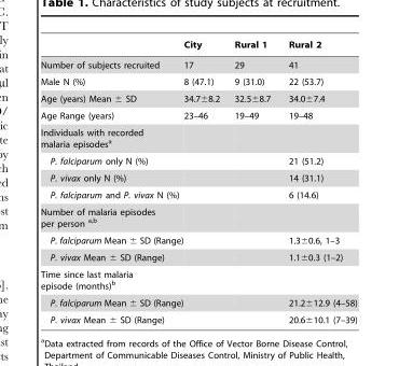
<table><thead><tr><td></td><td>City</td><td>Rural 1</td><td>Rural 2</td></tr></thead><tbody><tr><td>Number of subjects recruited</td><td>17</td><td>29</td><td>41</td></tr><tr><td>Male N (%)</td><td>8 (47.1)</td><td>9 (31.0)</td><td>22 (53.7)</td></tr><tr><td>Age (years) Mean ± SD</td><td>34.7±8.2</td><td>32.5±8.7</td><td>34.0±7.4</td></tr><tr><td>Age Range (years)</td><td>23–46</td><td>19–49</td><td>19–48</td></tr><tr><td colspan="4">Individuals with recorded malaria episodes<sup>a</sup></td></tr><tr><td>P. falciparum only N (%)</td><td></td><td></td><td>21 (51.2)</td></tr><tr><td>P. vivax only N (%)</td><td></td><td></td><td>14 (31.1)</td></tr><tr><td>P. falciparum and P. vivax N (%)</td><td></td><td></td><td>6 (14.6)</td></tr><tr><td colspan="4">Number of malaria episodes per person a,b</td></tr><tr><td>P. falciparum Mean ± SD (Range)</td><td></td><td></td><td>1.3±0.6, 1–3</td></tr><tr><td>P. vivax Mean ± SD (Range)</td><td></td><td></td><td>1.1±0.3 (1–2)</td></tr><tr><td colspan="4">Time since last malaria episode (months)<sup>b</sup></td></tr><tr><td>P. falciparum Mean ± SD (Range)</td><td></td><td></td><td>21.2±12.9 (4–58)</td></tr><tr><td>P. vivax Mean ± SD (Range)</td><td></td><td></td><td>20.6±10.1 (7–39)</td></tr></tbody></table>